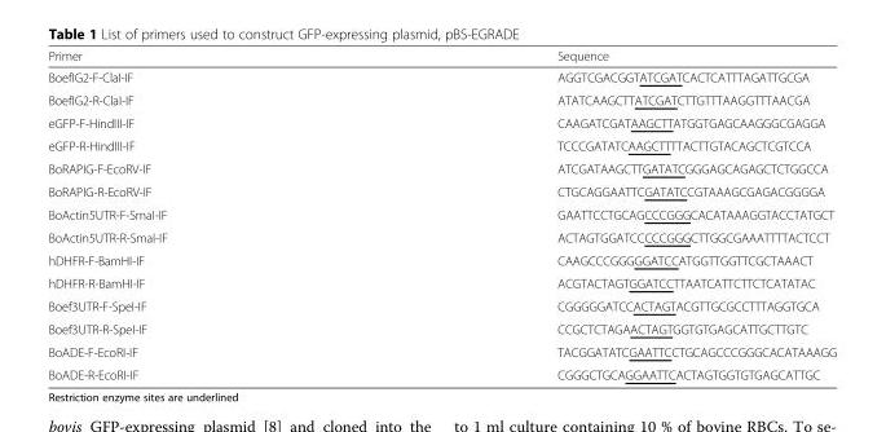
<table><thead><tr><td>Primer</td><td>Sequence</td></tr></thead><tbody><tr><td>BoefIG2-F-ClaI-IF</td><td>AGGTCGACGGTATCGATCACTCATTTAGATTGCGA</td></tr><tr><td>BoefIG2-R-ClaI-IF</td><td>ATATCAAGCTTATCGATCTTGTTTAAGGTTTAACGA</td></tr><tr><td>eGFP-F-HindIII-IF</td><td>CAAGATCGATAAGCTTATGGTGAGCAAGGGCGAGGA</td></tr><tr><td>eGFP-R-HindIII-IF</td><td>TCCCGATATCAAGCTTTTACTTGTACAGCTCGTCCA</td></tr><tr><td>BoRAPIG-F-EcoRV-IF</td><td>ATCGATAAGCTTGATATCGGGAGCAGAGCTCTGGCCA</td></tr><tr><td>BoRAPIG-R-EcoRV-IF</td><td>CTGCAGGAATTCGATATCCGTAAAGCGAGACGGGGA</td></tr><tr><td>BoActin5UTR-F-SmaI-IF</td><td>GAATTCCTGCAGCCCGGGCACATAAAGGTACCTATGCT</td></tr><tr><td>BoActin5UTR-R-SmaI-IF</td><td>ACTAGTGGATCCCCCGGGCTTGGCGAAATTTTACTCCT</td></tr><tr><td>hDHFR-F-BamHI-IF</td><td>CAAGCCCGGGGGATCCATGGTTGGTTCGCTAAACT</td></tr><tr><td>hDHFR-R-BamHI-IF</td><td>ACGTACTAGTGGATCCTTAATCATTCTTCTCATATAC</td></tr><tr><td>Boef3UTR-F-SpeI-IF</td><td>CGGGGGATCCACTAGTACGTTGCGCCTTTAGGTGCA</td></tr><tr><td>Boef3UTR-R-SpeI-IF</td><td>CCGCTCTAGAACTAGTGGTGTGAGCATTGCTTGTC</td></tr><tr><td>BoADE-F-EcoRI-IF</td><td>TACGGATATCGAATTCCTGCAGCCCGGGCACATAAAGG</td></tr><tr><td>BoADE-R-EcoRI-IF</td><td>CGGGCTGCAGGAATTCACTAGTGGTGTGAGCATTGC</td></tr></tbody></table>